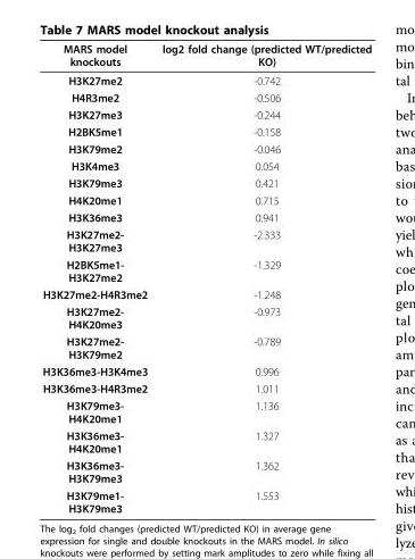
<table><thead><tr><td>MARS model knockouts</td><td>log2 fold change (predicted WT/predicted KO)</td></tr></thead><tbody><tr><td>H3K27me2</td><td>-0.742</td></tr><tr><td>H4R3me2</td><td>-0.506</td></tr><tr><td>H3K27me3</td><td>-0.244</td></tr><tr><td>H2BK5me1</td><td>-0.158</td></tr><tr><td>H3K79me2</td><td>-0.046</td></tr><tr><td>H3K4me3</td><td>0.054</td></tr><tr><td>H3K79me3</td><td>0.421</td></tr><tr><td>H4K20me1</td><td>0.715</td></tr><tr><td>H3K36me3</td><td>0.941</td></tr><tr><td>H3K27me2- H3K27me3</td><td>-2.333</td></tr><tr><td>H2BK5me1- H3K27me2</td><td>-1.329</td></tr><tr><td>H3K27me2-H4R3me2</td><td>-1.248</td></tr><tr><td>H3K27me2- H4K20me3</td><td>-0.973</td></tr><tr><td>H3K27me2- H3K79me2</td><td>-0.789</td></tr><tr><td>H3K36me3-H3K4me3</td><td>0.996</td></tr><tr><td>H3K36me3-H4R3me2</td><td>1.011</td></tr><tr><td>H3K79me3- H4K20me1</td><td>1.136</td></tr><tr><td>H3K36me3- H4K20me1</td><td>1.327</td></tr><tr><td>H3K36me3- H3K79me3</td><td>1.362</td></tr><tr><td>H3K79me1- H3K79me3</td><td>1.553</td></tr></tbody></table>